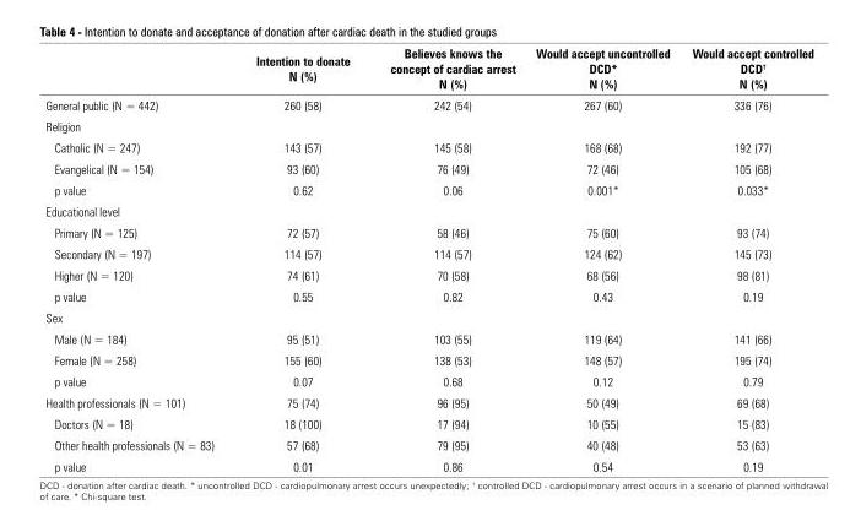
<table><thead><tr><td></td><td>Intention to donate N (%)</td><td>Believes knows the concept of cardiac arrest N (%)</td><td>Would accept uncontrolled DCD* N (%)</td><td>Would accept controlled DCD† N (%)</td></tr></thead><tbody><tr><td>General public (N = 442)</td><td>260 (58)</td><td>242 (54)</td><td>267 (60)</td><td>336 (76)</td></tr><tr><td colspan="5">Religion</td></tr><tr><td>Catholic (N = 247)</td><td>143 (57)</td><td>145 (58)</td><td>168 (68)</td><td>192 (77)</td></tr><tr><td>Evangelical (N = 154)</td><td>93 (60)</td><td>76 (49)</td><td>72 (46)</td><td>105 (68)</td></tr><tr><td>p value</td><td>0.62</td><td>0.06</td><td>0.001*</td><td>0.033*</td></tr><tr><td colspan="5">Educational level</td></tr><tr><td>Primary (N = 125)</td><td>72 (57)</td><td>58 (46)</td><td>75 (60)</td><td>93 (74)</td></tr><tr><td>Secondary (N = 197)</td><td>114 (57)</td><td>114 (57)</td><td>124 (62)</td><td>145 (73)</td></tr><tr><td>Higher (N = 120)</td><td>74 (61)</td><td>70 (58)</td><td>68 (56)</td><td>98 (81)</td></tr><tr><td>p value</td><td>0.55</td><td>0.82</td><td>0.43</td><td>0.19</td></tr><tr><td colspan="5">Sex</td></tr><tr><td>Male (N = 184)</td><td>95 (51)</td><td>103 (55)</td><td>119 (64)</td><td>141 (66)</td></tr><tr><td>Female (N = 258)</td><td>155 (60)</td><td>138 (53)</td><td>148 (57)</td><td>195 (74)</td></tr><tr><td>p value</td><td>0.07</td><td>0.68</td><td>0.12</td><td>0.79</td></tr><tr><td>Health professionals (N = 101)</td><td>75 (74)</td><td>96 (95)</td><td>50 (49)</td><td>69 (68)</td></tr><tr><td>Doctors (N = 18)</td><td>18 (100)</td><td>17 (94)</td><td>10 (55)</td><td>15 (83)</td></tr><tr><td>Other health professionals (N = 83)</td><td>57 (68)</td><td>79 (95)</td><td>40 (48)</td><td>53 (63)</td></tr><tr><td>p value</td><td>0.01</td><td>0.86</td><td>0.54</td><td>0.19</td></tr></tbody></table>